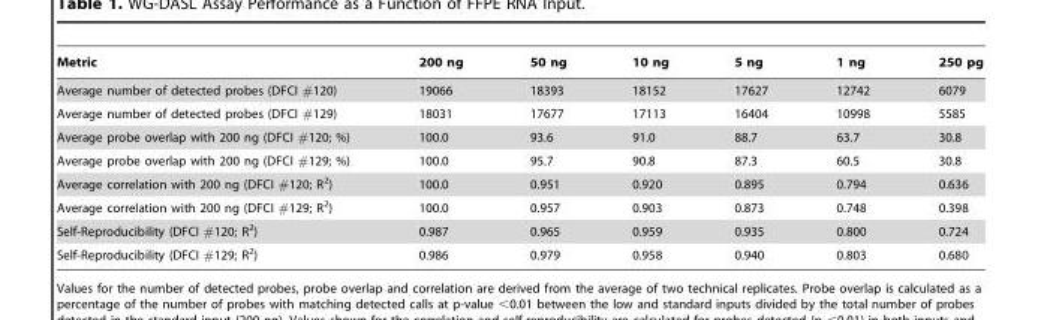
<table><thead><tr><td>Metric</td><td>200 ng</td><td>50 ng</td><td>10 ng</td><td>5 ng</td><td>1 ng</td><td>250 pg</td></tr></thead><tbody><tr><td>Average number of detected probes (DFCI #120)</td><td>19066</td><td>18393</td><td>18152</td><td>17627</td><td>12742</td><td>6079</td></tr><tr><td>Average number of detected probes (DFCI #129)</td><td>18031</td><td>17677</td><td>17113</td><td>16404</td><td>10998</td><td>5585</td></tr><tr><td>Average probe overlap with 200 ng (DFCI #120; %)</td><td>100.0</td><td>93.6</td><td>91.0</td><td>88.7</td><td>63.7</td><td>30.8</td></tr><tr><td>Average probe overlap with 200 ng (DFCI #129; %)</td><td>100.0</td><td>95.7</td><td>90.8</td><td>87.3</td><td>60.5</td><td>30.8</td></tr><tr><td>Average correlation with 200 ng (DFCI #120; R<sup>2</sup>)</td><td>100.0</td><td>0.951</td><td>0.920</td><td>0.895</td><td>0.794</td><td>0.636</td></tr><tr><td>Average correlation with 200 ng (DFCI #129; R<sup>2</sup>)</td><td>100.0</td><td>0.957</td><td>0.903</td><td>0.873</td><td>0.748</td><td>0.398</td></tr><tr><td>Self-Reproducibility (DFCI #120; R<sup>2</sup>)</td><td>0.987</td><td>0.965</td><td>0.959</td><td>0.935</td><td>0.800</td><td>0.724</td></tr><tr><td>Self-Reproducibility (DFCI #129; R<sup>2</sup>)</td><td>0.986</td><td>0.979</td><td>0.958</td><td>0.940</td><td>0.803</td><td>0.680</td></tr></tbody></table>